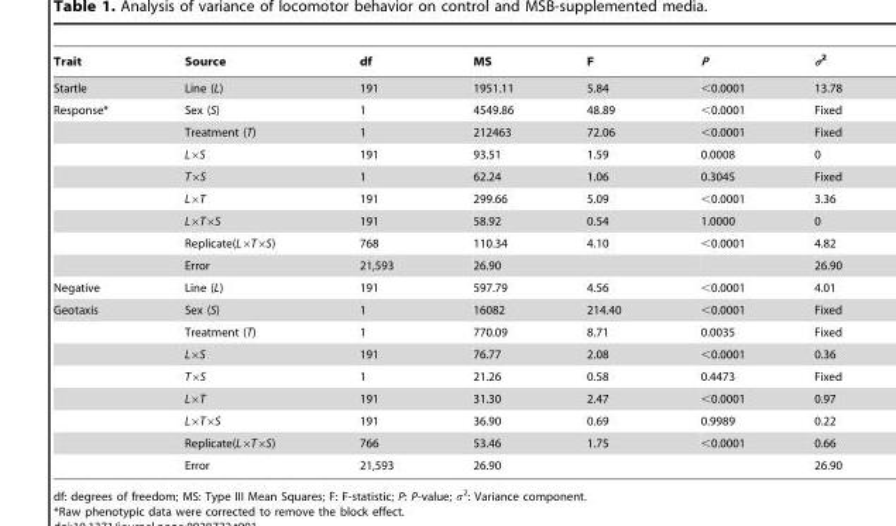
<table><thead><tr><td>Trait</td><td>Source</td><td>df</td><td>MS</td><td>F</td><td>P</td><td>σ<sup>2</sup></td></tr></thead><tbody><tr><td>Startle</td><td>Line (L)</td><td>191</td><td>1951.11</td><td>5.84</td><td>&lt;0.0001</td><td>13.78</td></tr><tr><td rowspan="8">Response*</td><td>Sex (S)</td><td>1</td><td>4549.86</td><td>48.89</td><td>&lt;0.0001</td><td>Fixed</td></tr><tr><td>Treatment (T)</td><td>1</td><td>212463</td><td>72.06</td><td>&lt;0.0001</td><td>Fixed</td></tr><tr><td>L×S</td><td>191</td><td>93.51</td><td>1.59</td><td>0.0008</td><td>0</td></tr><tr><td>T×S</td><td>1</td><td>62.24</td><td>1.06</td><td>0.3045</td><td>Fixed</td></tr><tr><td>L×T</td><td>191</td><td>299.66</td><td>5.09</td><td>&lt;0.0001</td><td>3.36</td></tr><tr><td>L×T×S</td><td>191</td><td>58.92</td><td>0.54</td><td>1.0000</td><td>0</td></tr><tr><td>Replicate(L×T×S)</td><td>768</td><td>110.34</td><td>4.10</td><td>&lt;0.0001</td><td>4.82</td></tr><tr><td>Error</td><td>21,593</td><td>26.90</td><td></td><td></td><td>26.90</td></tr><tr><td>Negative</td><td>Line (L)</td><td>191</td><td>597.79</td><td>4.56</td><td>&lt;0.0001</td><td>4.01</td></tr><tr><td rowspan="8">Geotaxis</td><td>Sex (S)</td><td>1</td><td>16082</td><td>214.40</td><td>&lt;0.0001</td><td>Fixed</td></tr><tr><td>Treatment (T)</td><td>1</td><td>770.09</td><td>8.71</td><td>0.0035</td><td>Fixed</td></tr><tr><td>L×S</td><td>191</td><td>76.77</td><td>2.08</td><td>&lt;0.0001</td><td>0.36</td></tr><tr><td>T×S</td><td>1</td><td>21.26</td><td>0.58</td><td>0.4473</td><td>Fixed</td></tr><tr><td>L×T</td><td>191</td><td>31.30</td><td>2.47</td><td>&lt;0.0001</td><td>0.97</td></tr><tr><td>L×T×S</td><td>191</td><td>36.90</td><td>0.69</td><td>0.9989</td><td>0.22</td></tr><tr><td>Replicate(L×T×S)</td><td>766</td><td>53.46</td><td>1.75</td><td>&lt;0.0001</td><td>0.66</td></tr><tr><td>Error</td><td>21,593</td><td>26.90</td><td></td><td></td><td>26.90</td></tr></tbody></table>